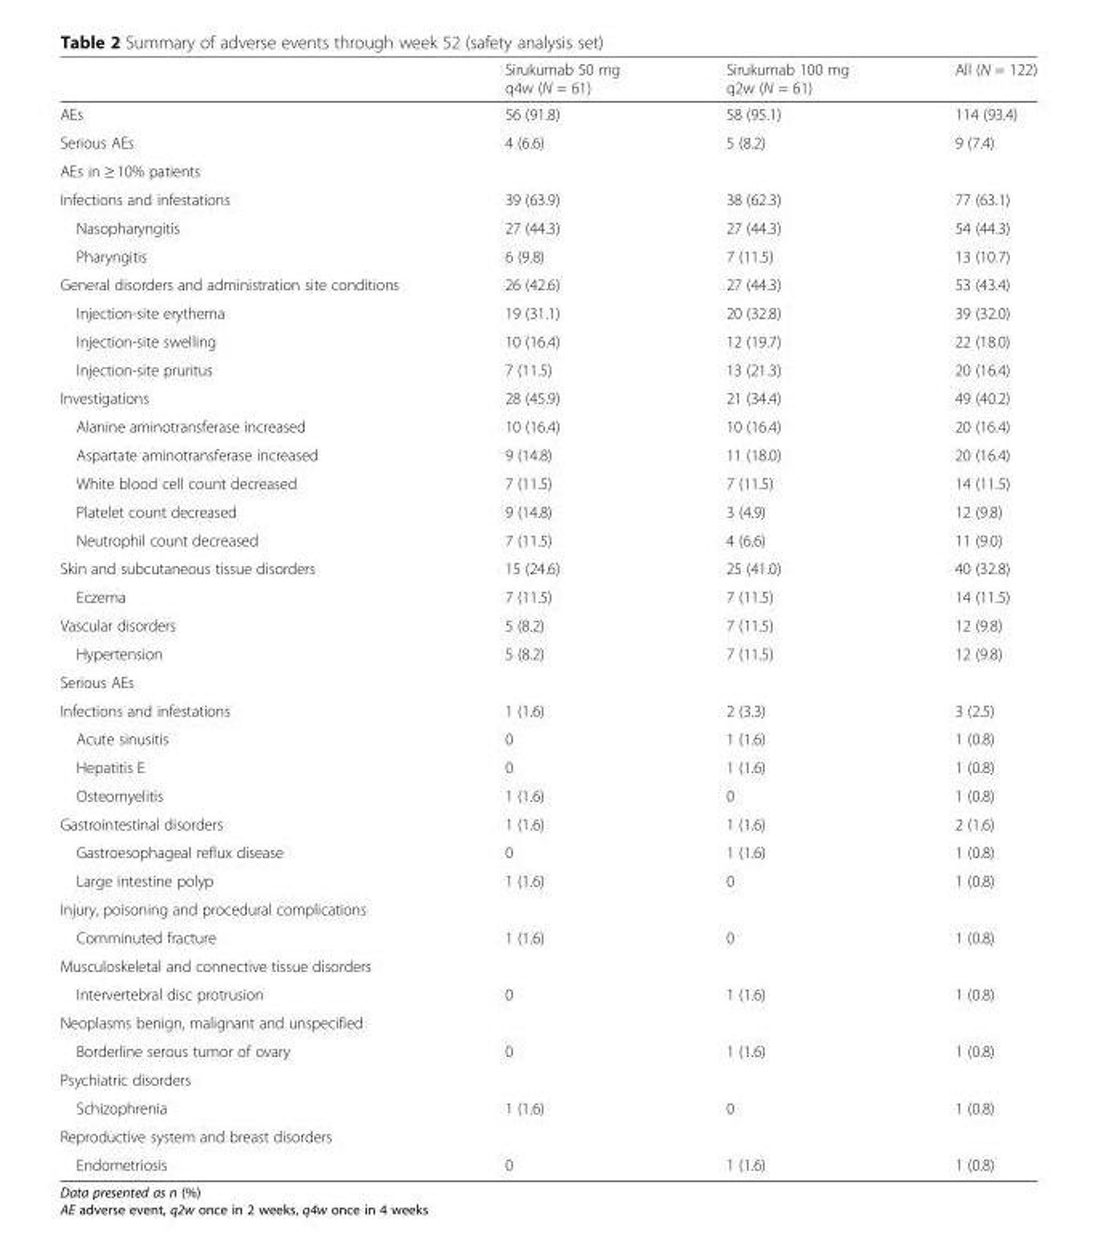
<table><thead><tr><td></td><td>Sirukumab 50 mg q4w (N = 61)</td><td>Sirukumab 100 mg q2w (N = 61)</td><td>All (N = 122)</td></tr></thead><tbody><tr><td>AEs</td><td>56 (91.8)</td><td>58 (95.1)</td><td>114 (93.4)</td></tr><tr><td>Serious AEs</td><td>4 (6.6)</td><td>5 (8.2)</td><td>9 (7.4)</td></tr><tr><td colspan="4">AEs in ≥ 10% patients</td></tr><tr><td>Infections and infestations</td><td>39 (63.9)</td><td>38 (62.3)</td><td>77 (63.1)</td></tr><tr><td>Nasopharyngitis</td><td>27 (44.3)</td><td>27 (44.3)</td><td>54 (44.3)</td></tr><tr><td>Pharyngitis</td><td>6 (9.8)</td><td>7 (11.5)</td><td>13 (10.7)</td></tr><tr><td>General disorders and administration site conditions</td><td>26 (42.6)</td><td>27 (44.3)</td><td>53 (43.4)</td></tr><tr><td>Injection-site erythema</td><td>19 (31.1)</td><td>20 (32.8)</td><td>39 (32.0)</td></tr><tr><td>Injection-site swelling</td><td>10 (16.4)</td><td>12 (19.7)</td><td>22 (18.0)</td></tr><tr><td>Injection-site pruritus</td><td>7 (11.5)</td><td>13 (21.3)</td><td>20 (16.4)</td></tr><tr><td>Investigations</td><td>28 (45.9)</td><td>21 (34.4)</td><td>49 (40.2)</td></tr><tr><td>Alanine aminotransferase increased</td><td>10 (16.4)</td><td>10 (16.4)</td><td>20 (16.4)</td></tr><tr><td>Aspartate aminotransferase increased</td><td>9 (14.8)</td><td>11 (18.0)</td><td>20 (16.4)</td></tr><tr><td>White blood cell count decreased</td><td>7 (11.5)</td><td>7 (11.5)</td><td>14 (11.5)</td></tr><tr><td>Platelet count decreased</td><td>9 (14.8)</td><td>3 (4.9)</td><td>12 (9.8)</td></tr><tr><td>Neutrophil count decreased</td><td>7 (11.5)</td><td>4 (6.6)</td><td>11 (9.0)</td></tr><tr><td>Skin and subcutaneous tissue disorders</td><td>15 (24.6)</td><td>25 (41.0)</td><td>40 (32.8)</td></tr><tr><td>Eczema</td><td>7 (11.5)</td><td>7 (11.5)</td><td>14 (11.5)</td></tr><tr><td>Vascular disorders</td><td>5 (8.2)</td><td>7 (11.5)</td><td>12 (9.8)</td></tr><tr><td>Hypertension</td><td>5 (8.2)</td><td>7 (11.5)</td><td>12 (9.8)</td></tr><tr><td colspan="4">Serious AEs</td></tr><tr><td>Infections and infestations</td><td>1 (1.6)</td><td>2 (3.3)</td><td>3 (2.5)</td></tr><tr><td>Acute sinusitis</td><td>0</td><td>1 (1.6)</td><td>1 (0.8)</td></tr><tr><td>Hepatitis E</td><td>0</td><td>1 (1.6)</td><td>1 (0.8)</td></tr><tr><td>Osteomyelitis</td><td>1 (1.6)</td><td>0</td><td>1 (0.8)</td></tr><tr><td>Gastrointestinal disorders</td><td>1 (1.6)</td><td>1 (1.6)</td><td>2 (1.6)</td></tr><tr><td>Gastroesophageal reflux disease</td><td>0</td><td>1 (1.6)</td><td>1 (0.8)</td></tr><tr><td>Large intestine polyp</td><td>1 (1.6)</td><td>0</td><td>1 (0.8)</td></tr><tr><td colspan="4">Injury, poisoning and procedural complications</td></tr><tr><td>Comminuted fracture</td><td>1 (1.6)</td><td>0</td><td>1 (0.8)</td></tr><tr><td colspan="4">Musculoskeletal and connective tissue disorders</td></tr><tr><td>Intervertebral disc protrusion</td><td>0</td><td>1 (1.6)</td><td>1 (0.8)</td></tr><tr><td colspan="4">Neoplasms benign, malignant and unspecified</td></tr><tr><td>Borderline serous tumor of ovary</td><td>0</td><td>1 (1.6)</td><td>1 (0.8)</td></tr><tr><td colspan="4">Psychiatric disorders</td></tr><tr><td>Schizophrenia</td><td>1 (1.6)</td><td>0</td><td>1 (0.8)</td></tr><tr><td colspan="4">Reproductive system and breast disorders</td></tr><tr><td>Endometriosis</td><td>0</td><td>1 (1.6)</td><td>1 (0.8)</td></tr></tbody></table>